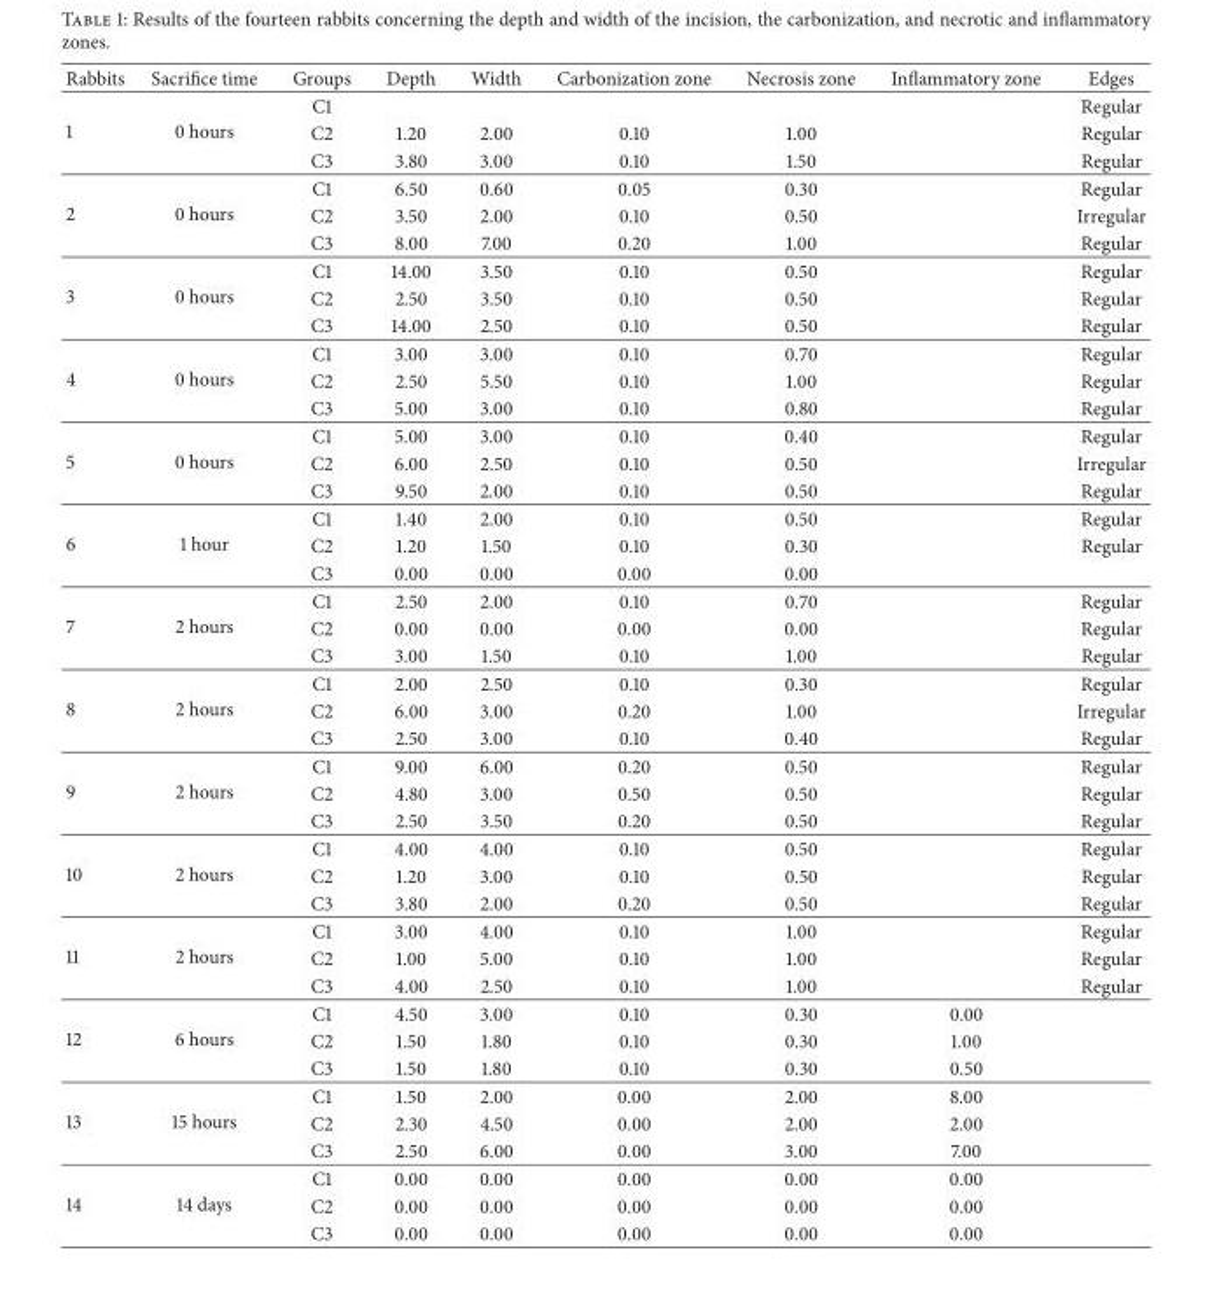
<table><thead><tr><td>Rabbits</td><td>Sacrifice time</td><td>Groups</td><td>Depth</td><td>Width</td><td>Carbonization zone</td><td>Necrosis zone</td><td>Inflammatory zone</td><td>Edges</td></tr></thead><tbody><tr><td rowspan="3">1</td><td rowspan="3">0 hours</td><td>C1</td><td></td><td></td><td></td><td></td><td></td><td>Regular</td></tr><tr><td>C2</td><td>1.20</td><td>2.00</td><td>0.10</td><td>1.00</td><td></td><td>Regular</td></tr><tr><td>C3</td><td>3.80</td><td>3.00</td><td>0.10</td><td>1.50</td><td></td><td>Regular</td></tr><tr><td rowspan="3">2</td><td rowspan="3">0 hours</td><td>C1</td><td>6.50</td><td>0.60</td><td>0.05</td><td>0.30</td><td></td><td>Regular</td></tr><tr><td>C2</td><td>3.50</td><td>2.00</td><td>0.10</td><td>0.50</td><td></td><td>Irregular</td></tr><tr><td>C3</td><td>8.00</td><td>7.00</td><td>0.20</td><td>1.00</td><td></td><td>Regular</td></tr><tr><td rowspan="3">3</td><td rowspan="3">0 hours</td><td>C1</td><td>14.00</td><td>3.50</td><td>0.10</td><td>0.50</td><td></td><td>Regular</td></tr><tr><td>C2</td><td>2.50</td><td>3.50</td><td>0.10</td><td>0.50</td><td></td><td>Regular</td></tr><tr><td>C3</td><td>14.00</td><td>2.50</td><td>0.10</td><td>0.50</td><td></td><td>Regular</td></tr><tr><td rowspan="3">4</td><td rowspan="3">0 hours</td><td>C1</td><td>3.00</td><td>3.00</td><td>0.10</td><td>0.70</td><td></td><td>Regular</td></tr><tr><td>C2</td><td>2.50</td><td>5.50</td><td>0.10</td><td>1.00</td><td></td><td>Regular</td></tr><tr><td>C3</td><td>5.00</td><td>3.00</td><td>0.10</td><td>0.80</td><td></td><td>Regular</td></tr><tr><td rowspan="3">5</td><td rowspan="3">0 hours</td><td>C1</td><td>5.00</td><td>3.00</td><td>0.10</td><td>0.40</td><td></td><td>Regular</td></tr><tr><td>C2</td><td>6.00</td><td>2.50</td><td>0.10</td><td>0.50</td><td></td><td>Irregular</td></tr><tr><td>C3</td><td>9.50</td><td>2.00</td><td>0.10</td><td>0.50</td><td></td><td>Regular</td></tr><tr><td rowspan="3">6</td><td rowspan="3">1 hour</td><td>C1</td><td>1.40</td><td>2.00</td><td>0.10</td><td>0.50</td><td></td><td>Regular</td></tr><tr><td>C2</td><td>1.20</td><td>1.50</td><td>0.10</td><td>0.30</td><td></td><td>Regular</td></tr><tr><td>C3</td><td>0.00</td><td>0.00</td><td>0.00</td><td>0.00</td><td></td><td></td></tr><tr><td rowspan="3">7</td><td rowspan="3">2 hours</td><td>C1</td><td>2.50</td><td>2.00</td><td>0.10</td><td>0.70</td><td></td><td>Regular</td></tr><tr><td>C2</td><td>0.00</td><td>0.00</td><td>0.00</td><td>0.00</td><td></td><td>Regular</td></tr><tr><td>C3</td><td>3.00</td><td>1.50</td><td>0.10</td><td>1.00</td><td></td><td>Regular</td></tr><tr><td rowspan="3">8</td><td rowspan="3">2 hours</td><td>C1</td><td>2.00</td><td>2.50</td><td>0.10</td><td>0.30</td><td></td><td>Regular</td></tr><tr><td>C2</td><td>6.00</td><td>3.00</td><td>0.20</td><td>1.00</td><td></td><td>Irregular</td></tr><tr><td>C3</td><td>2.50</td><td>3.00</td><td>0.10</td><td>0.40</td><td></td><td>Regular</td></tr><tr><td rowspan="3">9</td><td rowspan="3">2 hours</td><td>C1</td><td>9.00</td><td>6.00</td><td>0.20</td><td>0.50</td><td></td><td>Regular</td></tr><tr><td>C2</td><td>4.80</td><td>3.00</td><td>0.50</td><td>0.50</td><td></td><td>Regular</td></tr><tr><td>C3</td><td>2.50</td><td>3.50</td><td>0.20</td><td>0.50</td><td></td><td>Regular</td></tr><tr><td rowspan="3">10</td><td rowspan="3">2 hours</td><td>C1</td><td>4.00</td><td>4.00</td><td>0.10</td><td>0.50</td><td></td><td>Regular</td></tr><tr><td>C2</td><td>1.20</td><td>3.00</td><td>0.10</td><td>0.50</td><td></td><td>Regular</td></tr><tr><td>C3</td><td>3.80</td><td>2.00</td><td>0.20</td><td>0.50</td><td></td><td>Regular</td></tr><tr><td rowspan="3">11</td><td rowspan="3">2 hours</td><td>C1</td><td>3.00</td><td>4.00</td><td>0.10</td><td>1.00</td><td></td><td>Regular</td></tr><tr><td>C2</td><td>1.00</td><td>5.00</td><td>0.10</td><td>1.00</td><td></td><td>Regular</td></tr><tr><td>C3</td><td>4.00</td><td>2.50</td><td>0.10</td><td>1.00</td><td></td><td>Regular</td></tr><tr><td rowspan="3">12</td><td rowspan="3">6 hours</td><td>C1</td><td>4.50</td><td>3.00</td><td>0.10</td><td>0.30</td><td>0.00</td><td></td></tr><tr><td>C2</td><td>1.50</td><td>1.80</td><td>0.10</td><td>0.30</td><td>1.00</td><td></td></tr><tr><td>C3</td><td>1.50</td><td>1.80</td><td>0.10</td><td>0.30</td><td>0.50</td><td></td></tr><tr><td rowspan="3">13</td><td rowspan="3">15 hours</td><td>C1</td><td>1.50</td><td>2.00</td><td>0.00</td><td>2.00</td><td>8.00</td><td></td></tr><tr><td>C2</td><td>2.30</td><td>4.50</td><td>0.00</td><td>2.00</td><td>2.00</td><td></td></tr><tr><td>C3</td><td>2.50</td><td>6.00</td><td>0.00</td><td>3.00</td><td>7.00</td><td></td></tr><tr><td rowspan="3">14</td><td rowspan="3">14 days</td><td>C1</td><td>0.00</td><td>0.00</td><td>0.00</td><td>0.00</td><td>0.00</td><td></td></tr><tr><td>C2</td><td>0.00</td><td>0.00</td><td>0.00</td><td>0.00</td><td>0.00</td><td></td></tr><tr><td>C3</td><td>0.00</td><td>0.00</td><td>0.00</td><td>0.00</td><td>0.00</td><td></td></tr></tbody></table>